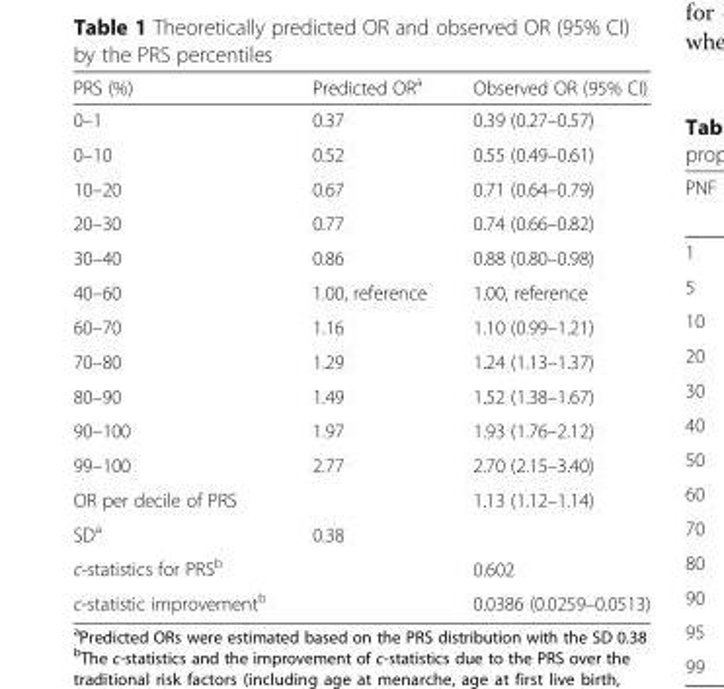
<table><thead><tr><td>PRS (%)</td><td>Predicted OR<sup>a</sup></td><td>Observed OR (95% CI)</td></tr></thead><tbody><tr><td>0–1</td><td>0.37</td><td>0.39 (0.27–0.57)</td></tr><tr><td>0–10</td><td>0.52</td><td>0.55 (0.49–0.61)</td></tr><tr><td>10–20</td><td>0.67</td><td>0.71 (0.64–0.79)</td></tr><tr><td>20–30</td><td>0.77</td><td>0.74 (0.66–0.82)</td></tr><tr><td>30–40</td><td>0.86</td><td>0.88 (0.80–0.98)</td></tr><tr><td>40–60</td><td>1.00, reference</td><td>1.00, reference</td></tr><tr><td>60–70</td><td>1.16</td><td>1.10 (0.99–1.21)</td></tr><tr><td>70–80</td><td>1.29</td><td>1.24 (1.13–1.37)</td></tr><tr><td>80–90</td><td>1.49</td><td>1.52 (1.38–1.67)</td></tr><tr><td>90–100</td><td>1.97</td><td>1.93 (1.76–2.12)</td></tr><tr><td>99–100</td><td>2.77</td><td>2.70 (2.15–3.40)</td></tr><tr><td>OR per decile of PRS</td><td></td><td>1.13 (1.12–1.14)</td></tr><tr><td>SD<sup>a</sup></td><td>0.38</td><td></td></tr><tr><td>c-statistics for PRS<sup>b</sup></td><td></td><td>0.602</td></tr><tr><td>c-statistic improvement<sup>b</sup></td><td></td><td>0.0386 (0.0259–0.0513)</td></tr></tbody></table>